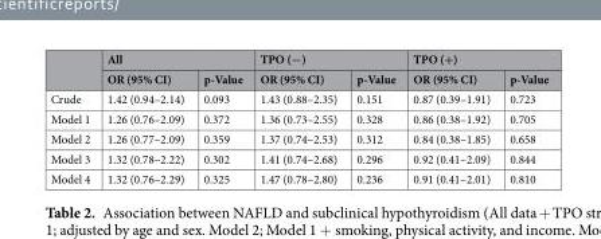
<table><thead><tr><td rowspan="2"></td><td colspan="2">All</td><td colspan="2">TPO (−)</td><td colspan="2">TPO (+)</td></tr><tr><td>OR (95% CI)</td><td>p-Value</td><td>OR (95% CI)</td><td>p-Value</td><td>OR (95% CI)</td><td>p-Value</td></tr></thead><tbody><tr><td>Crude</td><td>1.42 (0.94–2.14)</td><td>0.093</td><td>1.43 (0.88–2.35)</td><td>0.151</td><td>0.87 (0.39–1.91)</td><td>0.723</td></tr><tr><td>Model 1</td><td>1.26 (0.76–2.09)</td><td>0.372</td><td>1.36 (0.73–2.55)</td><td>0.328</td><td>0.86 (0.38–1.92)</td><td>0.705</td></tr><tr><td>Model 2</td><td>1.26 (0.77–2.09)</td><td>0.359</td><td>1.37 (0.74–2.53)</td><td>0.312</td><td>0.84 (0.38–1.85)</td><td>0.658</td></tr><tr><td>Model 3</td><td>1.32 (0.78–2.22)</td><td>0.302</td><td>1.41 (0.74–2.68)</td><td>0.296</td><td>0.92 (0.41–2.09)</td><td>0.844</td></tr><tr><td>Model 4</td><td>1.32 (0.76–2.29)</td><td>0.325</td><td>1.47 (0.78–2.80)</td><td>0.236</td><td>0.91 (0.41–2.01)</td><td>0.810</td></tr></tbody></table>